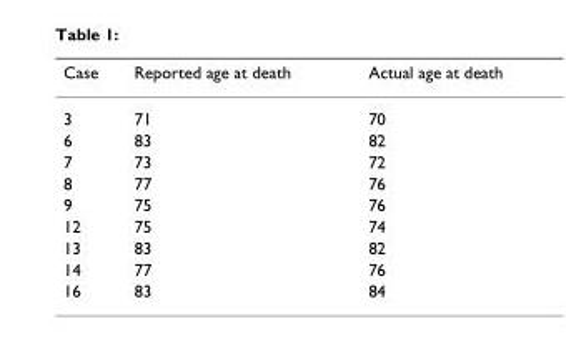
<table><thead><tr><td>Case</td><td>Reported age at death</td><td>Actual age at death</td></tr></thead><tbody><tr><td>3</td><td>71</td><td>70</td></tr><tr><td>6</td><td>83</td><td>82</td></tr><tr><td>7</td><td>73</td><td>72</td></tr><tr><td>8</td><td>77</td><td>76</td></tr><tr><td>9</td><td>75</td><td>76</td></tr><tr><td>12</td><td>75</td><td>74</td></tr><tr><td>13</td><td>83</td><td>82</td></tr><tr><td>14</td><td>77</td><td>76</td></tr><tr><td>16</td><td>83</td><td>84</td></tr></tbody></table>